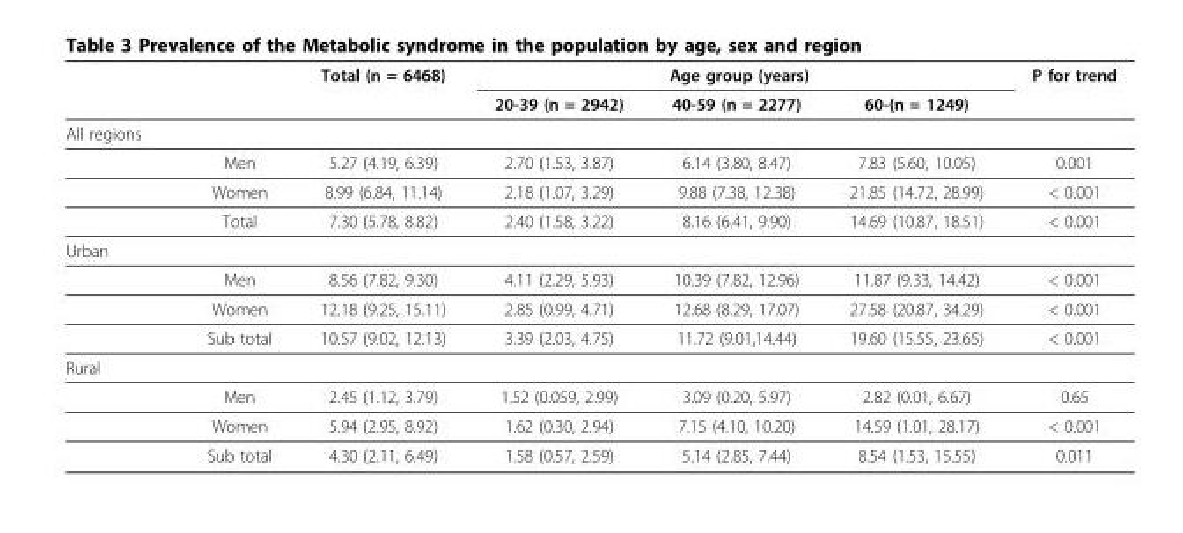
<table><thead><tr><td rowspan="2"></td><td rowspan="2"></td><td rowspan="2">Total (n = 6468)</td><td colspan="3">Age group (years)</td><td rowspan="2">P for trend</td></tr><tr><td>20-39 (n = 2942)</td><td>40-59 (n = 2277)</td><td>60-(n = 1249)</td></tr></thead><tbody><tr><td colspan="7">All regions</td></tr><tr><td></td><td>Men</td><td>5.27 (4.19, 6.39)</td><td>2.70 (1.53, 3.87)</td><td>6.14 (3.80, 8.47)</td><td>7.83 (5.60, 10.05)</td><td>0.001</td></tr><tr><td></td><td>Women</td><td>8.99 (6.84, 11.14)</td><td>2.18 (1.07, 3.29)</td><td>9.88 (7.38, 12.38)</td><td>21.85 (14.72, 28.99)</td><td>&lt; 0.001</td></tr><tr><td></td><td>Total</td><td>7.30 (5.78, 8.82)</td><td>2.40 (1.58, 3.22)</td><td>8.16 (6.41, 9.90)</td><td>14.69 (10.87, 18.51)</td><td>&lt; 0.001</td></tr><tr><td colspan="7">Urban</td></tr><tr><td></td><td>Men</td><td>8.56 (7.82, 9.30)</td><td>4.11 (2.29, 5.93)</td><td>10.39 (7.82, 12.96)</td><td>11.87 (9.33, 14.42)</td><td>&lt; 0.001</td></tr><tr><td></td><td>Women</td><td>12.18 (9.25, 15.11)</td><td>2.85 (0.99, 4.71)</td><td>12.68 (8.29, 17.07)</td><td>27.58 (20.87, 34.29)</td><td>&lt; 0.001</td></tr><tr><td></td><td>Sub total</td><td>10.57 (9.02, 12.13)</td><td>3.39 (2.03, 4.75)</td><td>11.72 (9.01,14.44)</td><td>19.60 (15.55, 23.65)</td><td>&lt; 0.001</td></tr><tr><td colspan="7">Rural</td></tr><tr><td></td><td>Men</td><td>2.45 (1.12, 3.79)</td><td>1.52 (0.059, 2.99)</td><td>3.09 (0.20, 5.97)</td><td>2.82 (0.01, 6.67)</td><td>0.65</td></tr><tr><td></td><td>Women</td><td>5.94 (2.95, 8.92)</td><td>1.62 (0.30, 2.94)</td><td>7.15 (4.10, 10.20)</td><td>14.59 (1.01, 28.17)</td><td>&lt; 0.001</td></tr><tr><td></td><td>Sub total</td><td>4.30 (2.11, 6.49)</td><td>1.58 (0.57, 2.59)</td><td>5.14 (2.85, 7.44)</td><td>8.54 (1.53, 15.55)</td><td>0.011</td></tr></tbody></table>